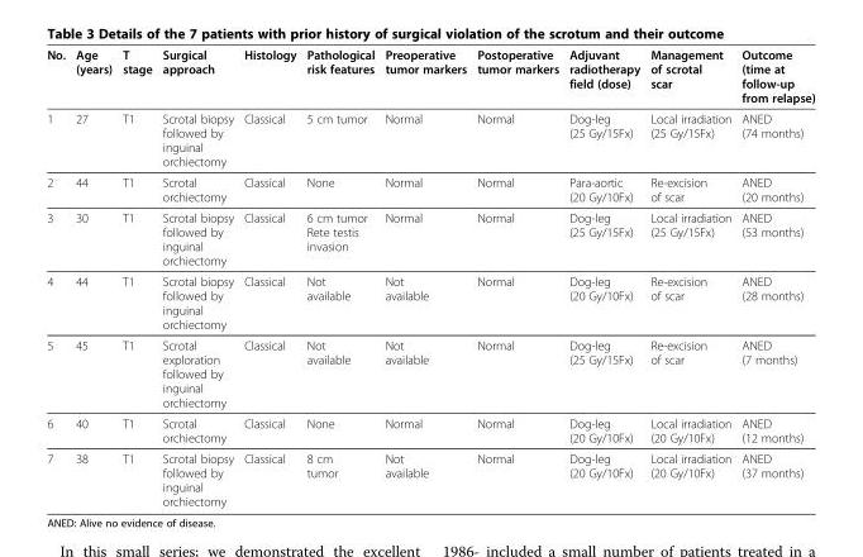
<table><thead><tr><td>No.</td><td>Age (years)</td><td>T stage</td><td>Surgical approach</td><td>Histology</td><td>Pathological risk features</td><td>Preoperative tumor markers</td><td>Postoperative tumor markers</td><td>Adjuvant radiotherapy field (dose)</td><td>Management of scrotal scar</td><td>Outcome (time at follow-up from relapse)</td></tr></thead><tbody><tr><td>1</td><td>27</td><td>T1</td><td>Scrotal biopsy followed by inguinal orchiectomy</td><td>Classical</td><td>5 cm tumor</td><td>Normal</td><td>Normal</td><td>Dog-leg (25 Gy/15Fx)</td><td>Local irradiation (25 Gy/15Fx)</td><td>ANED (74 months)</td></tr><tr><td>2</td><td>44</td><td>T1</td><td>Scrotal orchiectomy</td><td>Classical</td><td>None</td><td>Normal</td><td>Normal</td><td>Para-aortic (20 Gy/10Fx)</td><td>Re-excision of scar</td><td>ANED (20 months)</td></tr><tr><td>3</td><td>30</td><td>T1</td><td>Scrotal biopsy followed by inguinal orchiectomy</td><td>Classical</td><td>6 cm tumor Rete testis invasion</td><td>Normal</td><td>Normal</td><td>Dog-leg (25 Gy/15Fx)</td><td>Local irradiation (25 Gy/15Fx)</td><td>ANED (53 months)</td></tr><tr><td>4</td><td>44</td><td>T1</td><td>Scrotal biopsy followed by inguinal orchiectomy</td><td>Classical</td><td>Not available</td><td>Not available</td><td>Normal</td><td>Dog-leg (20 Gy/10Fx)</td><td>Re-excision of scar</td><td>ANED (28 months)</td></tr><tr><td>5</td><td>45</td><td>T1</td><td>Scrotal exploration followed by inguinal orchiectomy</td><td>Classical</td><td>Not available</td><td>Not available</td><td>Normal</td><td>Dog-leg (25 Gy/15Fx)</td><td>Re-excision of scar</td><td>ANED (7 months)</td></tr><tr><td>6</td><td>40</td><td>T1</td><td>Scrotal orchiectomy</td><td>Classical</td><td>None</td><td>Normal</td><td>Normal</td><td>Dog-leg (20 Gy/10Fx)</td><td>Local irradiation (20 Gy/10Fx)</td><td>ANED (12 months)</td></tr><tr><td>7</td><td>38</td><td>T1</td><td>Scrotal biopsy followed by inguinal orchiectomy</td><td>Classical</td><td>8 cm tumor</td><td>Not available</td><td>Normal</td><td>Dog-leg (20 Gy/10Fx)</td><td>Local irradiation (20 Gy/10Fx)</td><td>ANED (37 months)</td></tr></tbody></table>